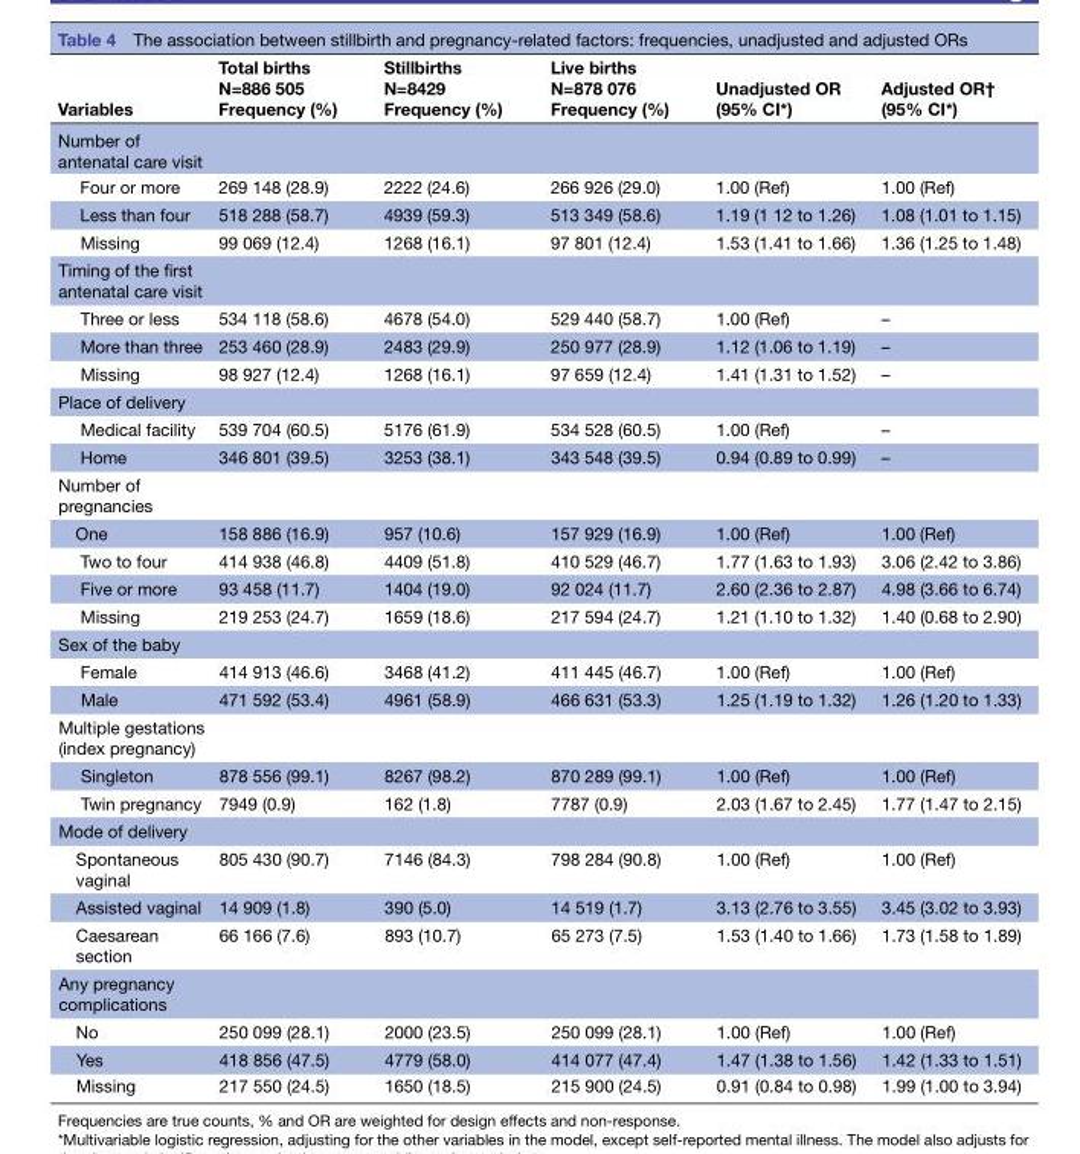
<table><thead><tr><td>Variables</td><td>Total births N=886 505 Frequency (%)</td><td>Stillbirths N=8429 Frequency (%)</td><td>Live births N=878 076 Frequency (%)</td><td>Unadjusted OR (95% CI*)</td><td>Adjusted OR† (95% CI*)</td></tr></thead><tbody><tr><td colspan="6">Number of antenatal care visit</td></tr><tr><td>Four or more</td><td>269 148 (28.9)</td><td>2222 (24.6)</td><td>266 926 (29.0)</td><td>1.00 (Ref)</td><td>1.00 (Ref)</td></tr><tr><td>Less than four</td><td>518 288 (58.7)</td><td>4939 (59.3)</td><td>513 349 (58.6)</td><td>1.19 (1 12 to 1.26)</td><td>1.08 (1.01 to 1.15)</td></tr><tr><td>Missing</td><td>99 069 (12.4)</td><td>1268 (16.1)</td><td>97 801 (12.4)</td><td>1.53 (1.41 to 1.66)</td><td>1.36 (1.25 to 1.48)</td></tr><tr><td colspan="6">Timing of the first antenatal care visit</td></tr><tr><td>Three or less</td><td>534 118 (58.6)</td><td>4678 (54.0)</td><td>529 440 (58.7)</td><td>1.00 (Ref)</td><td>–</td></tr><tr><td>More than three</td><td>253 460 (28.9)</td><td>2483 (29.9)</td><td>250 977 (28.9)</td><td>1.12 (1.06 to 1.19)</td><td>–</td></tr><tr><td>Missing</td><td>98 927 (12.4)</td><td>1268 (16.1)</td><td>97 659 (12.4)</td><td>1.41 (1.31 to 1.52)</td><td>–</td></tr><tr><td colspan="6">Place of delivery</td></tr><tr><td>Medical facility</td><td>539 704 (60.5)</td><td>5176 (61.9)</td><td>534 528 (60.5)</td><td>1.00 (Ref)</td><td>–</td></tr><tr><td>Home</td><td>346 801 (39.5)</td><td>3253 (38.1)</td><td>343 548 (39.5)</td><td>0.94 (0.89 to 0.99)</td><td>–</td></tr><tr><td colspan="6">Number of pregnancies</td></tr><tr><td>One</td><td>158 886 (16.9)</td><td>957 (10.6)</td><td>157 929 (16.9)</td><td>1.00 (Ref)</td><td>1.00 (Ref)</td></tr><tr><td>Two to four</td><td>414 938 (46.8)</td><td>4409 (51.8)</td><td>410 529 (46.7)</td><td>1.77 (1.63 to 1.93)</td><td>3.06 (2.42 to 3.86)</td></tr><tr><td>Five or more</td><td>93 458 (11.7)</td><td>1404 (19.0)</td><td>92 024 (11.7)</td><td>2.60 (2.36 to 2.87)</td><td>4.98 (3.66 to 6.74)</td></tr><tr><td>Missing</td><td>219 253 (24.7)</td><td>1659 (18.6)</td><td>217 594 (24.7)</td><td>1.21 (1.10 to 1.32)</td><td>1.40 (0.68 to 2.90)</td></tr><tr><td colspan="6">Sex of the baby</td></tr><tr><td>Female</td><td>414 913 (46.6)</td><td>3468 (41.2)</td><td>411 445 (46.7)</td><td>1.00 (Ref)</td><td>1.00 (Ref)</td></tr><tr><td>Male</td><td>471 592 (53.4)</td><td>4961 (58.9)</td><td>466 631 (53.3)</td><td>1.25 (1.19 to 1.32)</td><td>1.26 (1.20 to 1.33)</td></tr><tr><td colspan="6">Multiple gestations (index pregnancy)</td></tr><tr><td>Singleton</td><td>878 556 (99.1)</td><td>8267 (98.2)</td><td>870 289 (99.1)</td><td>1.00 (Ref)</td><td>1.00 (Ref)</td></tr><tr><td>Twin pregnancy</td><td>7949 (0.9)</td><td>162 (1.8)</td><td>7787 (0.9)</td><td>2.03 (1.67 to 2.45)</td><td>1.77 (1.47 to 2.15)</td></tr><tr><td colspan="6">Mode of delivery</td></tr><tr><td>Spontaneous vaginal</td><td>805 430 (90.7)</td><td>7146 (84.3)</td><td>798 284 (90.8)</td><td>1.00 (Ref)</td><td>1.00 (Ref)</td></tr><tr><td>Assisted vaginal</td><td>14 909 (1.8)</td><td>390 (5.0)</td><td>14 519 (1.7)</td><td>3.13 (2.76 to 3.55)</td><td>3.45 (3.02 to 3.93)</td></tr><tr><td>Caesarean section</td><td>66 166 (7.6)</td><td>893 (10.7)</td><td>65 273 (7.5)</td><td>1.53 (1.40 to 1.66)</td><td>1.73 (1.58 to 1.89)</td></tr><tr><td colspan="6">Any pregnancy complications</td></tr><tr><td>No</td><td>250 099 (28.1)</td><td>2000 (23.5)</td><td>250 099 (28.1)</td><td>1.00 (Ref)</td><td>1.00 (Ref)</td></tr><tr><td>Yes</td><td>418 856 (47.5)</td><td>4779 (58.0)</td><td>414 077 (47.4)</td><td>1.47 (1.38 to 1.56)</td><td>1.42 (1.33 to 1.51)</td></tr><tr><td>Missing</td><td>217 550 (24.5)</td><td>1650 (18.5)</td><td>215 900 (24.5)</td><td>0.91 (0.84 to 0.98)</td><td>1.99 (1.00 to 3.94)</td></tr></tbody></table>